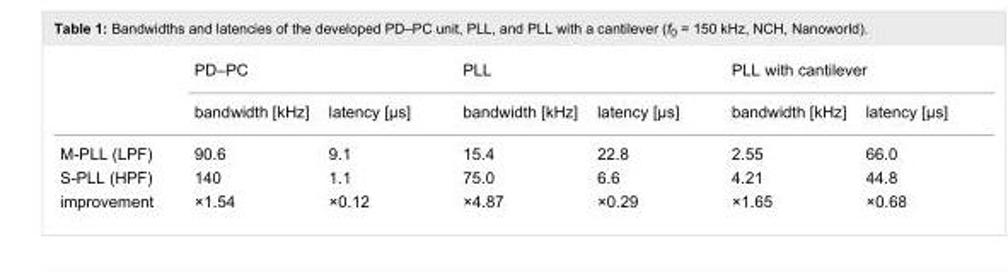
<table><thead><tr><td rowspan="2"></td><td colspan="2">PD–PC</td><td colspan="2">PLL</td><td colspan="2">PLL with cantilever</td></tr><tr><td>bandwidth [kHz]</td><td>latency [μs]</td><td>bandwidth [kHz]</td><td>latency [μs]</td><td>bandwidth [kHz]</td><td>latency [μs]</td></tr></thead><tbody><tr><td>M-PLL (LPF)</td><td>90.6</td><td>9.1</td><td>15.4</td><td>22.8</td><td>2.55</td><td>66.0</td></tr><tr><td>S-PLL (HPF)</td><td>140</td><td>1.1</td><td>75.0</td><td>6.6</td><td>4.21</td><td>44.8</td></tr><tr><td>improvement</td><td>×1.54</td><td>×0.12</td><td>×4.87</td><td>×0.29</td><td>×1.65</td><td>×0.68</td></tr></tbody></table>